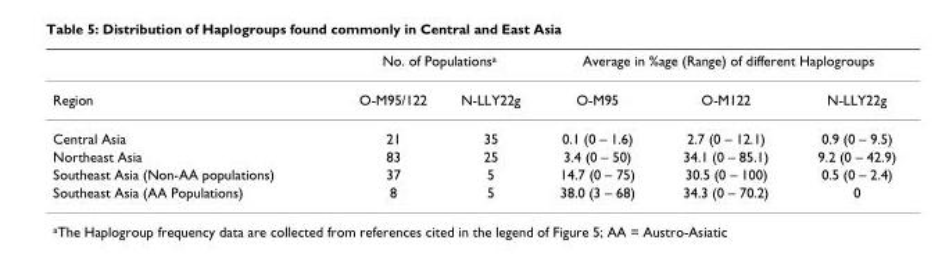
<table><thead><tr><td rowspan="2">Region</td><td colspan="2">No. of Populations<sup>a</sup></td><td colspan="3">Average in %age (Range) of different Haplogroups</td></tr><tr><td>O-M95/122</td><td>N-LLY22g</td><td>O-M95</td><td>O-M122</td><td>N-LLY22g</td></tr></thead><tbody><tr><td>Central Asia</td><td>21</td><td>35</td><td>0.1 (0 – 1.6)</td><td>2.7 (0 – 12.1)</td><td>0.9 (0 – 9.5)</td></tr><tr><td>Northeast Asia</td><td>83</td><td>25</td><td>3.4 (0 – 50)</td><td>34.1 (0 – 85.1)</td><td>9.2 (0 – 42.9)</td></tr><tr><td>Southeast Asia (Non-AA populations)</td><td>37</td><td>5</td><td>14.7 (0 – 75)</td><td>30.5 (0 – 100)</td><td>0.5 (0 – 2.4)</td></tr><tr><td>Southeast Asia (AA Populations)</td><td>8</td><td>5</td><td>38.0 (3 – 68)</td><td>34.3 (0 – 70.2)</td><td>0</td></tr></tbody></table>